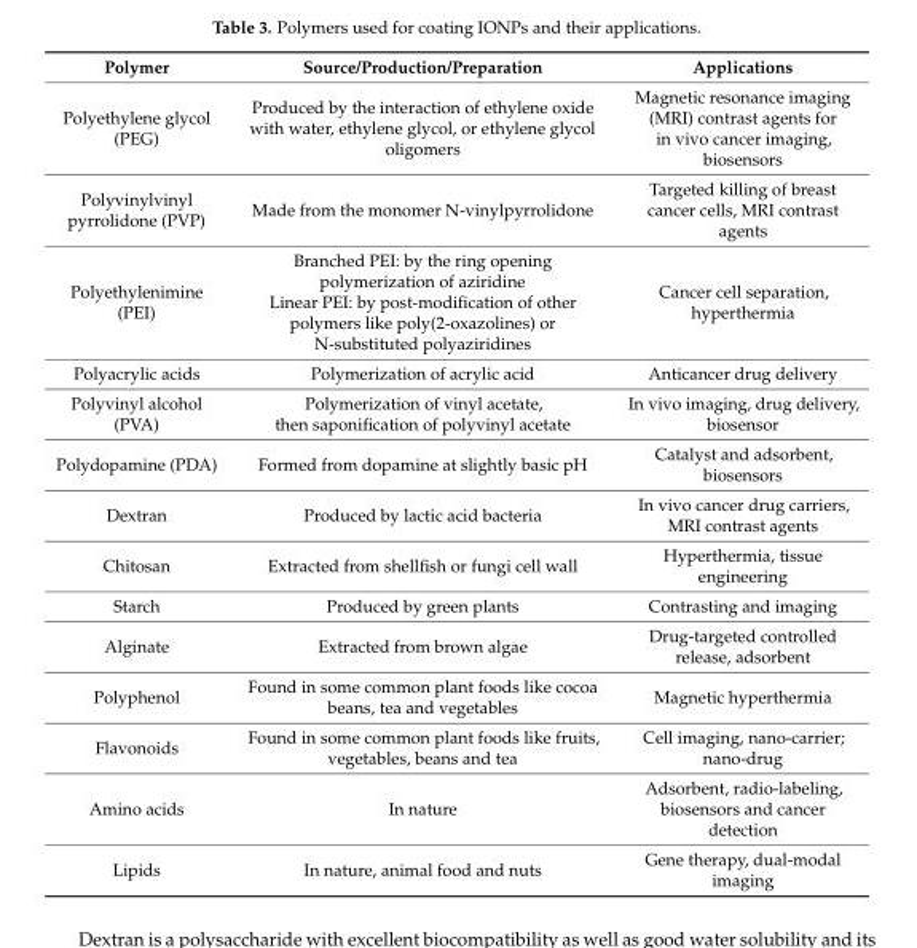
<table><thead><tr><td>Polymer</td><td>Source/Production/Preparation</td><td>Applications</td></tr></thead><tbody><tr><td>Polyethylene glycol (PEG)</td><td>Produced by the interaction of ethylene oxide with water, ethylene glycol, or ethylene glycol oligomers</td><td>Magnetic resonance imaging (MRI) contrast agents for in vivo cancer imaging, biosensors</td></tr><tr><td>Polyvinylvinyl pyrrolidone (PVP)</td><td>Made from the monomer N-vinylpyrrolidone</td><td>Targeted killing of breast cancer cells, MRI contrast agents</td></tr><tr><td>Polyethylenimine (PEI)</td><td>Branched PEI: by the ring opening polymerization of aziridine Linear PEI: by post-modification of other polymers like poly(2-oxazolines) or N-substituted polyaziridines</td><td>Cancer cell separation, hyperthermia</td></tr><tr><td>Polyacrylic acids</td><td>Polymerization of acrylic acid</td><td>Anticancer drug delivery</td></tr><tr><td>Polyvinyl alcohol (PVA)</td><td>Polymerization of vinyl acetate, then saponification of polyvinyl acetate</td><td>In vivo imaging, drug delivery, biosensor</td></tr><tr><td>Polydopamine (PDA)</td><td>Formed from dopamine at slightly basic pH</td><td>Catalyst and adsorbent, biosensors</td></tr><tr><td>Dextran</td><td>Produced by lactic acid bacteria</td><td>In vivo cancer drug carriers, MRI contrast agents</td></tr><tr><td>Chitosan</td><td>Extracted from shellfish or fungi cell wall</td><td>Hyperthermia, tissue engineering</td></tr><tr><td>Starch</td><td>Produced by green plants</td><td>Contrasting and imaging</td></tr><tr><td>Alginate</td><td>Extracted from brown algae</td><td>Drug-targeted controlled release, adsorbent</td></tr><tr><td>Polyphenol</td><td>Found in some common plant foods like cocoa beans, tea and vegetables</td><td>Magnetic hyperthermia</td></tr><tr><td>Flavonoids</td><td>Found in some common plant foods like fruits, vegetables, beans and tea</td><td>Cell imaging, nano-carrier; nano-drug</td></tr><tr><td>Amino acids</td><td>In nature</td><td>Adsorbent, radio-labeling, biosensors and cancer detection</td></tr><tr><td>Lipids</td><td>In nature, animal food and nuts</td><td>Gene therapy, dual-modal imaging</td></tr></tbody></table>